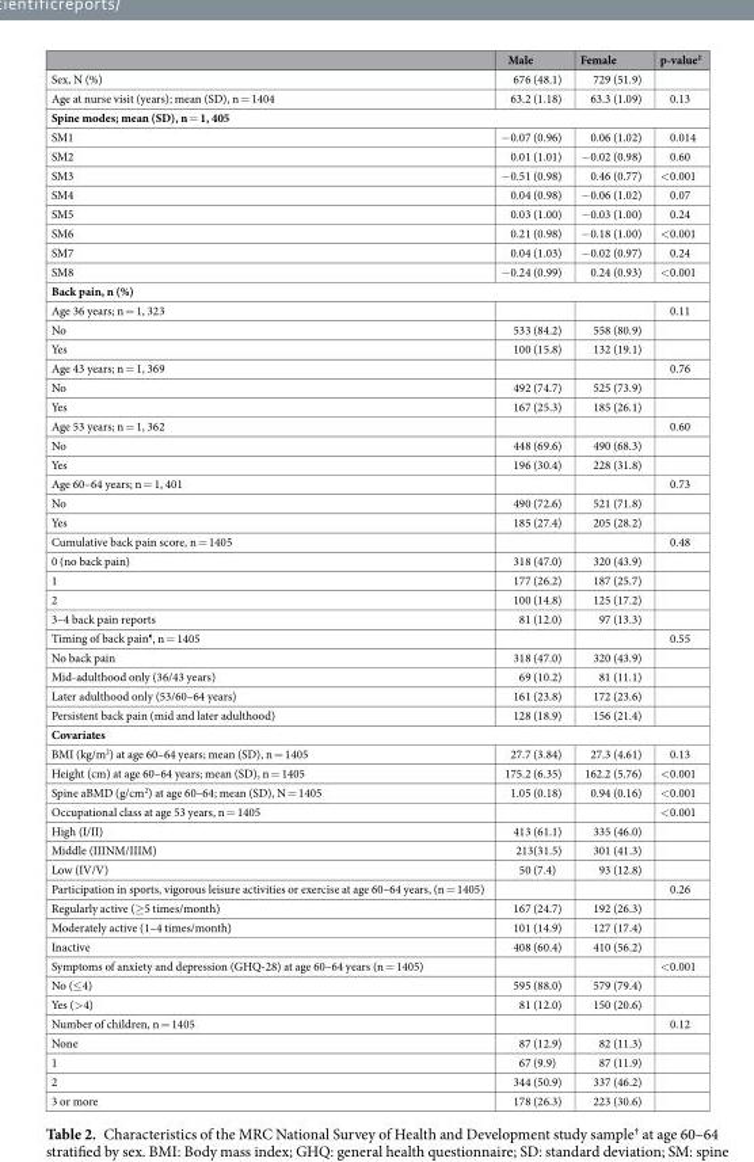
<table><thead><tr><td></td><td>Male</td><td>Female</td><td>p-value<sup>‡</sup></td></tr></thead><tbody><tr><td>Sex, N (%)</td><td>676 (48.1)</td><td>729 (51.9)</td><td></td></tr><tr><td>Age at nurse visit (years); mean (SD), n = 1404</td><td>63.2 (1.18)</td><td>63.3 (1.09)</td><td>0.13</td></tr><tr><td colspan="4">Spine modes; mean (SD), n = 1, 405</td></tr><tr><td>SM1</td><td>−0.07 (0.96)</td><td>0.06 (1.02)</td><td>0.014</td></tr><tr><td>SM2</td><td>0.01 (1.01)</td><td>−0.02 (0.98)</td><td>0.60</td></tr><tr><td>SM3</td><td>−0.51 (0.98)</td><td>0.46 (0.77)</td><td>&lt;0.001</td></tr><tr><td>SM4</td><td>0.04 (0.98)</td><td>−0.06 (1.02)</td><td>0.07</td></tr><tr><td>SM5</td><td>0.03 (1.00)</td><td>−0.03 (1.00)</td><td>0.24</td></tr><tr><td>SM6</td><td>0.21 (0.98)</td><td>−0.18 (1.00)</td><td>&lt;0.001</td></tr><tr><td>SM7</td><td>0.04 (1.03)</td><td>−0.02 (0.97)</td><td>0.24</td></tr><tr><td>SM8</td><td>−0.24 (0.99)</td><td>0.24 (0.93)</td><td>&lt;0.001</td></tr><tr><td colspan="4">Back pain, n (%)</td></tr><tr><td>Age 36 years; n = 1, 323</td><td></td><td></td><td>0.11</td></tr><tr><td>No</td><td>533 (84.2)</td><td>558 (80.9)</td><td></td></tr><tr><td>Yes</td><td>100 (15.8)</td><td>132 (19.1)</td><td></td></tr><tr><td>Age 43 years; n = 1, 369</td><td></td><td></td><td>0.76</td></tr><tr><td>No</td><td>492 (74.7)</td><td>525 (73.9)</td><td></td></tr><tr><td>Yes</td><td>167 (25.3)</td><td>185 (26.1)</td><td></td></tr><tr><td>Age 53 years; n = 1, 362</td><td></td><td></td><td>0.60</td></tr><tr><td>No</td><td>448 (69.6)</td><td>490 (68.3)</td><td></td></tr><tr><td>Yes</td><td>196 (30.4)</td><td>228 (31.8)</td><td></td></tr><tr><td>Age 60–64 years; n = 1, 401</td><td></td><td></td><td>0.73</td></tr><tr><td>No</td><td>490 (72.6)</td><td>521 (71.8)</td><td></td></tr><tr><td>Yes</td><td>185 (27.4)</td><td>205 (28.2)</td><td></td></tr><tr><td>Cumulative back pain score, n = 1405</td><td></td><td></td><td>0.48</td></tr><tr><td>0 (no back pain)</td><td>318 (47.0)</td><td>320 (43.9)</td><td></td></tr><tr><td>1</td><td>177 (26.2)</td><td>187 (25.7)</td><td></td></tr><tr><td>2</td><td>100 (14.8)</td><td>125 (17.2)</td><td></td></tr><tr><td>3–4 back pain reports</td><td>81 (12.0)</td><td>97 (13.3)</td><td></td></tr><tr><td>Timing of back pain<sup>¶</sup>, n = 1405</td><td></td><td></td><td>0.55</td></tr><tr><td>No back pain</td><td>318 (47.0)</td><td>320 (43.9)</td><td></td></tr><tr><td>Mid-adulthood only (36/43 years)</td><td>69 (10.2)</td><td>81 (11.1)</td><td></td></tr><tr><td>Later adulthood only (53/60–64 years)</td><td>161 (23.8)</td><td>172 (23.6)</td><td></td></tr><tr><td>Persistent back pain (mid and later adulthood)</td><td>128 (18.9)</td><td>156 (21.4)</td><td></td></tr><tr><td colspan="4">Covariates</td></tr><tr><td>BMI (kg/m<sup>2</sup>) at age 60–64 years; mean (SD), n = 1405</td><td>27.7 (3.84)</td><td>27.3 (4.61)</td><td>0.13</td></tr><tr><td>Height (cm) at age 60–64 years; mean (SD), n = 1405</td><td>175.2 (6.35)</td><td>162.2 (5.76)</td><td>&lt;0.001</td></tr><tr><td>Spine aBMD (g/cm<sup>2</sup>) at age 60–64; mean (SD), N = 1405</td><td>1.05 (0.18)</td><td>0.94 (0.16)</td><td>&lt;0.001</td></tr><tr><td>Occupational class at age 53 years, n = 1405</td><td></td><td></td><td>&lt;0.001</td></tr><tr><td>High (I/II)</td><td>413 (61.1)</td><td>335 (46.0)</td><td></td></tr><tr><td>Middle (IIINM/IIIM)</td><td>213(31.5)</td><td>301 (41.3)</td><td></td></tr><tr><td>Low (IV/V)</td><td>50 (7.4)</td><td>93 (12.8)</td><td></td></tr><tr><td>Participation in sports, vigorous leisure activities or exercise at age 60–64 years, (n = 1405)</td><td></td><td></td><td>0.26</td></tr><tr><td>Regularly active (≥5 times/month)</td><td>167 (24.7)</td><td>192 (26.3)</td><td></td></tr><tr><td>Moderately active (1–4 times/month)</td><td>101 (14.9)</td><td>127 (17.4)</td><td></td></tr><tr><td>Inactive</td><td>408 (60.4)</td><td>410 (56.2)</td><td></td></tr><tr><td>Symptoms of anxiety and depression (GHQ-28) at age 60–64 years (n = 1405)</td><td></td><td></td><td>&lt;0.001</td></tr><tr><td>No (≤4)</td><td>595 (88.0)</td><td>579 (79.4)</td><td></td></tr><tr><td>Yes (&gt;4)</td><td>81 (12.0)</td><td>150 (20.6)</td><td></td></tr><tr><td>Number of children, n = 1405</td><td></td><td></td><td>0.12</td></tr><tr><td>None</td><td>87 (12.9)</td><td>82 (11.3)</td><td></td></tr><tr><td>1</td><td>67 (9.9)</td><td>87 (11.9)</td><td></td></tr><tr><td>2</td><td>344 (50.9)</td><td>337 (46.2)</td><td></td></tr><tr><td>3 or more</td><td>178 (26.3)</td><td>223 (30.6)</td><td></td></tr></tbody></table>